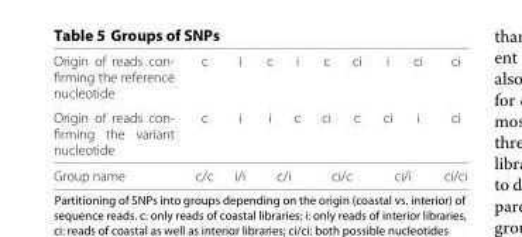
<table><thead><tr><td rowspan="2">Origin of reads con- firming the reference nucleotide Origin of reads con- firming the variant nucleotide</td><td rowspan="2">c c</td><td rowspan="2">i i</td><td rowspan="2">c i</td><td rowspan="2">i c</td><td rowspan="2">c ci</td><td rowspan="2">ci c</td><td rowspan="2">i ci</td><td rowspan="2">ci i</td><td rowspan="2">ci ci</td></tr><tr></tr></thead><tbody><tr><td>Group name</td><td>c/c</td><td>i/i</td><td colspan="2">c/i</td><td colspan="2">ci/c</td><td colspan="2">ci/i</td><td>ci/ci</td></tr></tbody></table>